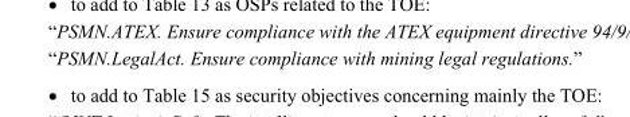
<table><tbody><tr><td>“PSMN.LegalAct.</td><td>Ensure compliance with mining legal regulations.”</td></tr></tbody></table>